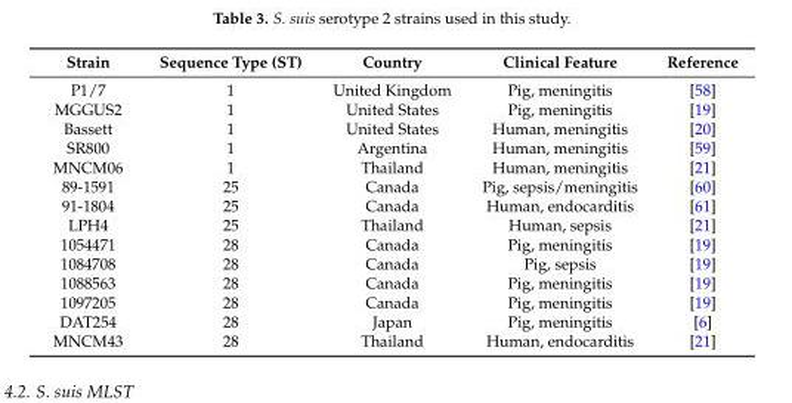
<table><thead><tr><td>Strain</td><td>Sequence Type (ST)</td><td>Country</td><td>Clinical Feature</td><td>Reference</td></tr></thead><tbody><tr><td>P1/7</td><td>1</td><td>United Kingdom</td><td>Pig, meningitis</td><td>[58]</td></tr><tr><td>MGGUS2</td><td>1</td><td>United States</td><td>Pig, meningitis</td><td>[19]</td></tr><tr><td>Bassett</td><td>1</td><td>United States</td><td>Human, meningitis</td><td>[20]</td></tr><tr><td>SR800</td><td>1</td><td>Argentina</td><td>Human, meningitis</td><td>[59]</td></tr><tr><td>MNCM06</td><td>1</td><td>Thailand</td><td>Human, meningitis</td><td>[21]</td></tr><tr><td>89-1591</td><td>25</td><td>Canada</td><td>Pig, sepsis/meningitis</td><td>[60]</td></tr><tr><td>91-1804</td><td>25</td><td>Canada</td><td>Human, endocarditis</td><td>[61]</td></tr><tr><td>LPH4</td><td>25</td><td>Thailand</td><td>Human, sepsis</td><td>[21]</td></tr><tr><td>1054471</td><td>28</td><td>Canada</td><td>Pig, meningitis</td><td>[19]</td></tr><tr><td>1084708</td><td>28</td><td>Canada</td><td>Pig, sepsis</td><td>[19]</td></tr><tr><td>1088563</td><td>28</td><td>Canada</td><td>Pig, meningitis</td><td>[19]</td></tr><tr><td>1097205</td><td>28</td><td>Canada</td><td>Pig, meningitis</td><td>[19]</td></tr><tr><td>DAT254</td><td>28</td><td>Japan</td><td>Pig, meningitis</td><td>[6]</td></tr><tr><td>MNCM43</td><td>28</td><td>Thailand</td><td>Human, endocarditis</td><td>[21]</td></tr></tbody></table>